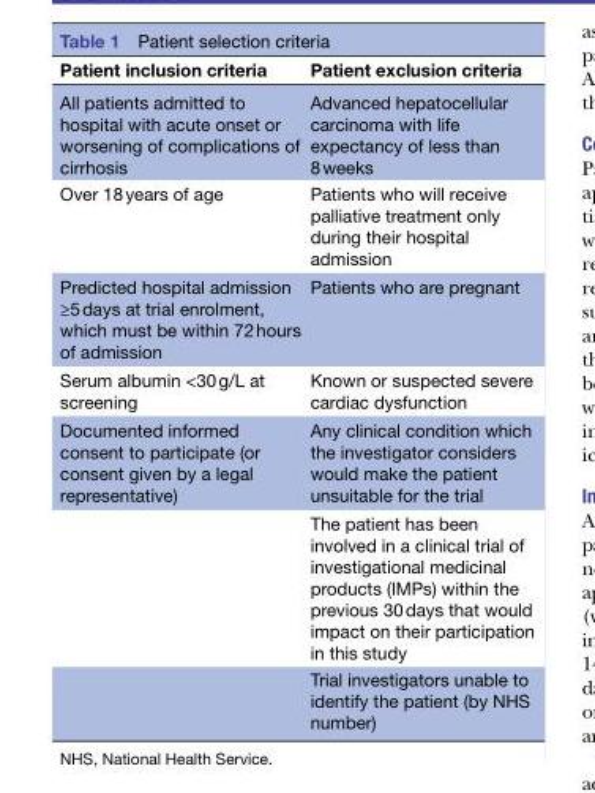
<table><thead><tr><td>Patient inclusion criteria</td><td>Patient exclusion criteria</td></tr></thead><tbody><tr><td>All patients admitted to hospital with acute onset or worsening of complications of cirrhosis</td><td>Advanced hepatocellular carcinoma with life expectancy of less than 8 weeks</td></tr><tr><td>Over 18 years of age</td><td>Patients who will receive palliative treatment only during their hospital admission</td></tr><tr><td>Predicted hospital admission ≥5 days at trial enrolment, which must be within 72 hours of admission</td><td>Patients who are pregnant</td></tr><tr><td>Serum albumin &lt;30 g/L at screening</td><td>Known or suspected severe cardiac dysfunction</td></tr><tr><td rowspan="3">Documented informed consent to participate (or consent given by a legal representative)</td><td>Any clinical condition which the investigator considers would make the patient unsuitable for the trial</td></tr><tr><td>The patient has been involved in a clinical trial of investigational medicinal products (IMPs) within the previous 30 days that would impact on their participation in this study</td></tr><tr><td>Trial investigators unable to identify the patient (by NHS number)</td></tr></tbody></table>